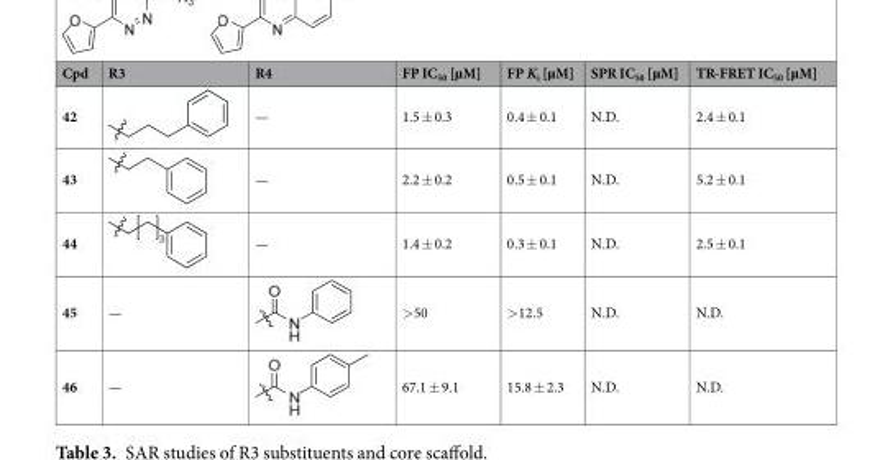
<table><thead><tr><td>Cpd</td><td>R3</td><td>R4</td><td>FP IC<sub>50</sub> [µM]</td><td>FP K<sub>i</sub> [µM]</td><td>SPR IC<sub>50</sub> [µM]</td><td>TR-FRET IC<sub>50</sub> [µM]</td></tr></thead><tbody><tr><td>42</td><td></td><td>—</td><td>1.5 ± 0.3</td><td>0.4 ± 0.1</td><td>N.D.</td><td>2.4 ± 0.1</td></tr><tr><td>43</td><td></td><td>—</td><td>2.2 ± 0.2</td><td>0.5 ± 0.1</td><td>N.D.</td><td>5.2 ± 0.1</td></tr><tr><td>44</td><td></td><td>—</td><td>1.4 ± 0.2</td><td>0.3 ± 0.1</td><td>N.D.</td><td>2.5 ± 0.1</td></tr><tr><td>45</td><td>—</td><td></td><td>&gt;50</td><td>&gt;12.5</td><td>N.D.</td><td>N.D.</td></tr><tr><td>46</td><td>—</td><td></td><td>67.1 ± 9.1</td><td>15.8 ± 2.3</td><td>N.D.</td><td>N.D.</td></tr></tbody></table>